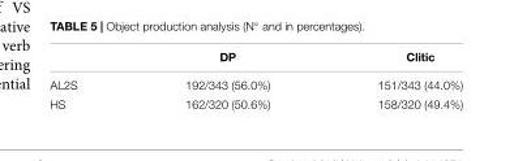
<table><thead><tr><td></td><td>DP</td><td>Clitic</td></tr></thead><tbody><tr><td>AL2S</td><td>192/343 (56.0%)</td><td>151/343 (44.0%)</td></tr><tr><td>HS</td><td>162/320 (50.6%)</td><td>158/320 (49.4%)</td></tr></tbody></table>